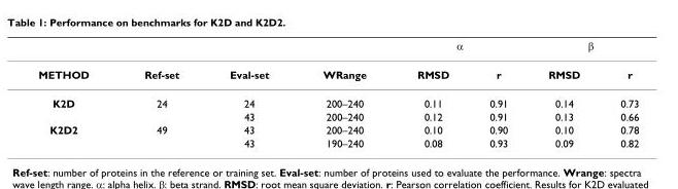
<table><thead><tr><td rowspan="2">METHOD</td><td rowspan="2">Ref-set</td><td rowspan="2">Eval-set</td><td rowspan="2">WRange</td><td colspan="2">α</td><td colspan="2">β</td></tr><tr><td>RMSD</td><td>r</td><td>RMSD</td><td>r</td></tr></thead><tbody><tr><td rowspan="2">K2D</td><td>24</td><td>24</td><td>200–240</td><td>0.11</td><td>0.91</td><td>0.14</td><td>0.73</td></tr><tr><td></td><td>43</td><td>200–240</td><td>0.12</td><td>0.91</td><td>0.13</td><td>0.66</td></tr><tr><td rowspan="2">K2D2</td><td>49</td><td>43</td><td>200–240</td><td>0.10</td><td>0.90</td><td>0.10</td><td>0.78</td></tr><tr><td></td><td>43</td><td>190–240</td><td>0.08</td><td>0.93</td><td>0.09</td><td>0.82</td></tr></tbody></table>